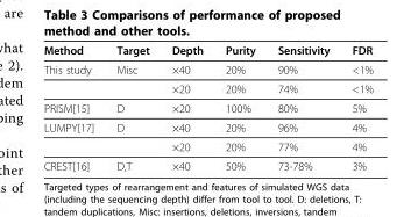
<table><thead><tr><td>Method</td><td>Target</td><td>Depth</td><td>Purity</td><td>Sensitivity</td><td>FDR</td></tr></thead><tbody><tr><td rowspan="2">This study</td><td>Misc</td><td>×40</td><td>20%</td><td>90%</td><td>&lt;1%</td></tr><tr><td></td><td>×20</td><td>20%</td><td>74%</td><td>&lt;1%</td></tr><tr><td>PRISM[15]</td><td>D</td><td>×20</td><td>100%</td><td>80%</td><td>5%</td></tr><tr><td rowspan="2">LUMPY[17]</td><td>D</td><td>×40</td><td>20%</td><td>96%</td><td>4%</td></tr><tr><td></td><td>×20</td><td>20%</td><td>77%</td><td>4%</td></tr><tr><td>CREST[16]</td><td>D,T</td><td>×40</td><td>50%</td><td>73-78%</td><td>3%</td></tr></tbody></table>